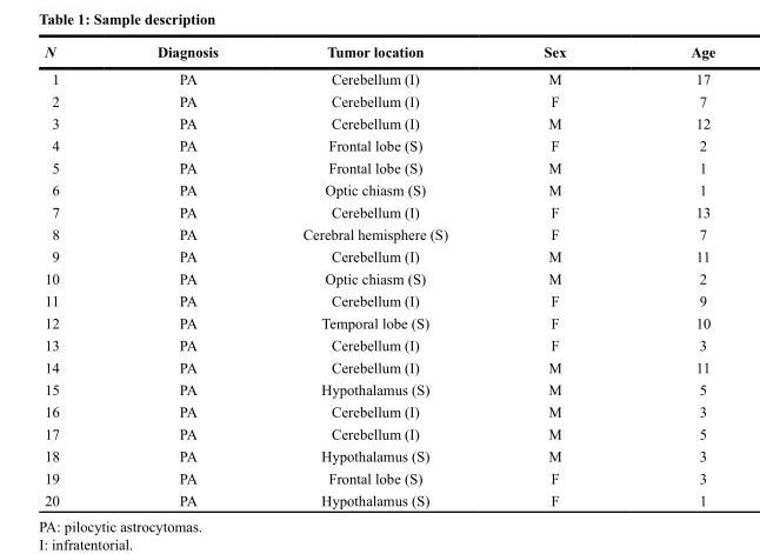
<table><thead><tr><td>N</td><td>Diagnosis</td><td>Tumor location</td><td>Sex</td><td>Age</td></tr></thead><tbody><tr><td>1</td><td>PA</td><td>Cerebellum (I)</td><td>M</td><td>17</td></tr><tr><td>2</td><td>PA</td><td>Cerebellum (I)</td><td>F</td><td>7</td></tr><tr><td>3</td><td>PA</td><td>Cerebellum (I)</td><td>M</td><td>12</td></tr><tr><td>4</td><td>PA</td><td>Frontal lobe (S)</td><td>F</td><td>2</td></tr><tr><td>5</td><td>PA</td><td>Frontal lobe (S)</td><td>M</td><td>1</td></tr><tr><td>6</td><td>PA</td><td>Optic chiasm (S)</td><td>M</td><td>1</td></tr><tr><td>7</td><td>PA</td><td>Cerebellum (I)</td><td>F</td><td>13</td></tr><tr><td>8</td><td>PA</td><td>Cerebral hemisphere (S)</td><td>F</td><td>7</td></tr><tr><td>9</td><td>PA</td><td>Cerebellum (I)</td><td>M</td><td>11</td></tr><tr><td>10</td><td>PA</td><td>Optic chiasm (S)</td><td>M</td><td>2</td></tr><tr><td>11</td><td>PA</td><td>Cerebellum (I)</td><td>F</td><td>9</td></tr><tr><td>12</td><td>PA</td><td>Temporal lobe (S)</td><td>F</td><td>10</td></tr><tr><td>13</td><td>PA</td><td>Cerebellum (I)</td><td>F</td><td>3</td></tr><tr><td>14</td><td>PA</td><td>Cerebellum (I)</td><td>M</td><td>11</td></tr><tr><td>15</td><td>PA</td><td>Hypothalamus (S)</td><td>M</td><td>5</td></tr><tr><td>16</td><td>PA</td><td>Cerebellum (I)</td><td>M</td><td>3</td></tr><tr><td>17</td><td>PA</td><td>Cerebellum (I)</td><td>M</td><td>5</td></tr><tr><td>18</td><td>PA</td><td>Hypothalamus (S)</td><td>M</td><td>3</td></tr><tr><td>19</td><td>PA</td><td>Frontal lobe (S)</td><td>F</td><td>3</td></tr><tr><td>20</td><td>PA</td><td>Hypothalamus (S)</td><td>F</td><td>1</td></tr></tbody></table>